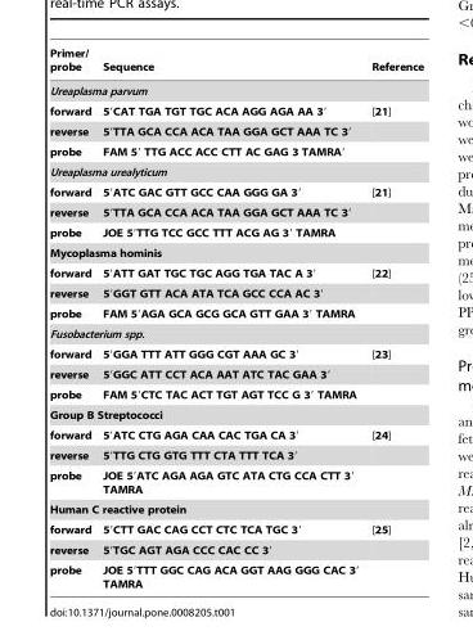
<table><thead><tr><td>Primer/ probe</td><td>Sequence</td><td>Reference</td></tr></thead><tbody><tr><td colspan="3">Ureaplasma parvum</td></tr><tr><td>forward</td><td>5′CAT TGA TGT TGC ACA AGG AGA AA 3′</td><td>[21]</td></tr><tr><td>reverse</td><td>5′TTA GCA CCA ACA TAA GGA GCT AAA TC 3′</td><td></td></tr><tr><td>probe</td><td>FAM 5′ TTG ACC ACC CTT AC GAG 3 TAMRA′</td><td></td></tr><tr><td colspan="3">Ureaplasma urealyticum</td></tr><tr><td>forward</td><td>5′ATC GAC GTT GCC CAA GGG GA 3′</td><td>[21]</td></tr><tr><td>reverse</td><td>5′TTA GCA CCA ACA TAA GGA GCT AAA TC 3′</td><td></td></tr><tr><td>probe</td><td>JOE 5′TTG TCC GCC TTT ACG AG 3′ TAMRA</td><td></td></tr><tr><td colspan="3">Mycoplasma hominis</td></tr><tr><td>forward</td><td>5′ATT GAT TGC TGC AGG TGA TAC A 3′</td><td>[22]</td></tr><tr><td>reverse</td><td>5′GGT GTT ACA ATA TCA GCC CCA AC 3′</td><td></td></tr><tr><td>probe</td><td>FAM 5′AGA GCA GCG GCA GTT GAA 3′ TAMRA</td><td></td></tr><tr><td colspan="3">Fusobacterium spp.</td></tr><tr><td>forward</td><td>5′GGA TTT ATT GGG CGT AAA GC 3′</td><td>[23]</td></tr><tr><td>reverse</td><td>5′GGC ATT CCT ACA AAT ATC TAC GAA 3′</td><td></td></tr><tr><td>probe</td><td>FAM 5′CTC TAC ACT TGT AGT TCC G 3′ TAMRA</td><td></td></tr><tr><td colspan="3">Group B Streptococci</td></tr><tr><td>forward</td><td>5′ATC CTG AGA CAA CAC TGA CA 3′</td><td>[24]</td></tr><tr><td>reverse</td><td>5′TTG CTG GTG TTT CTA TTT TCA 3′</td><td></td></tr><tr><td>probe</td><td>JOE 5′ATC AGA AGA GTC ATA CTG CCA CTT 3′ TAMRA</td><td></td></tr><tr><td colspan="3">Human C reactive protein</td></tr><tr><td>forward</td><td>5′CTT GAC CAG CCT CTC TCA TGC 3′</td><td>[25]</td></tr><tr><td>reverse</td><td>5′TGC AGT AGA CCC CAC CC 3′</td><td></td></tr><tr><td>probe</td><td>JOE 5′TTT GGC CAG ACA GGT AAG GGG CAC 3′ TAMRA</td><td></td></tr></tbody></table>